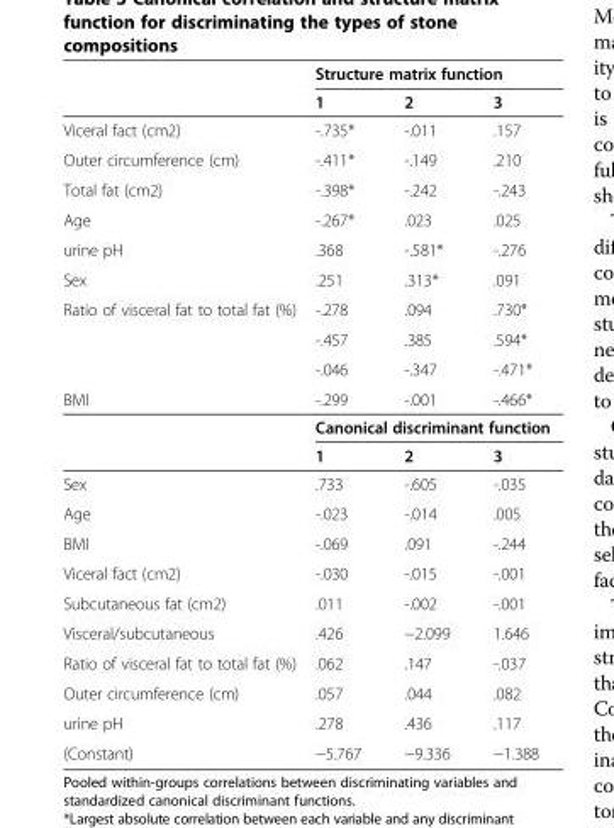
<table><thead><tr><td rowspan="2"></td><td colspan="3">Structure matrix function</td></tr><tr><td>1</td><td>2</td><td>3</td></tr></thead><tbody><tr><td>Viceral fact (cm2)</td><td>-.735*</td><td>-.011</td><td>.157</td></tr><tr><td>Outer circumference (cm)</td><td>-.411*</td><td>-.149</td><td>.210</td></tr><tr><td>Total fat (cm2)</td><td>-.398*</td><td>-.242</td><td>-.243</td></tr><tr><td>Age</td><td>-.267*</td><td>.023</td><td>.025</td></tr><tr><td>urine pH</td><td>.368</td><td>-.581*</td><td>-.276</td></tr><tr><td>Sex</td><td>.251</td><td>.313*</td><td>.091</td></tr><tr><td rowspan="3">Ratio of visceral fat to total fat (%)</td><td>-.278</td><td>.094</td><td>.730*</td></tr><tr><td>-.457</td><td>.385</td><td>.594*</td></tr><tr><td>-.046</td><td>-.347</td><td>-.471*</td></tr><tr><td rowspan="3">BMI</td><td>-.299</td><td>-.001</td><td>-.466*</td></tr><tr><td colspan="3">Canonical discriminant function</td></tr><tr><td>1</td><td>2</td><td>3</td></tr><tr><td>Sex</td><td>.733</td><td>-.605</td><td>-.035</td></tr><tr><td>Age</td><td>-.023</td><td>-.014</td><td>.005</td></tr><tr><td>BMI</td><td>-.069</td><td>.091</td><td>-.244</td></tr><tr><td>Viceral fact (cm2)</td><td>-.030</td><td>-.015</td><td>-.001</td></tr><tr><td>Subcutaneous fat (cm2)</td><td>.011</td><td>-.002</td><td>-.001</td></tr><tr><td>Visceral/subcutaneous</td><td>.426</td><td>−2.099</td><td>1.646</td></tr><tr><td>Ratio of visceral fat to total fat (%)</td><td>.062</td><td>.147</td><td>-.037</td></tr><tr><td>Outer circumference (cm)</td><td>.057</td><td>.044</td><td>.082</td></tr><tr><td>urine pH</td><td>.278</td><td>.436</td><td>.117</td></tr><tr><td>(Constant)</td><td>−5.767</td><td>−9.336</td><td>−1.388</td></tr></tbody></table>